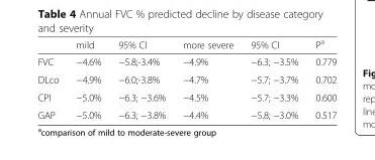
<table><thead><tr><td></td><td>mild</td><td>95% CI</td><td>more severe</td><td>95% CI</td><td>P<sup>a</sup></td></tr></thead><tbody><tr><td>FVC</td><td>−4.6%</td><td>−5.8;-3.4%</td><td>−4.9%</td><td>−6.3; −3.5%</td><td>0.779</td></tr><tr><td>DLco</td><td>−4.9%</td><td>−6.0;-3.8%</td><td>−4.7%</td><td>−5.7; −3.7%</td><td>0.702</td></tr><tr><td>CPI</td><td>−5.0%</td><td>−6.3; −3.6%</td><td>−4.5%</td><td>−5.7; −3.3%</td><td>0.600</td></tr><tr><td>GAP</td><td>−5.0%</td><td>−6.3; −3.8%</td><td>−4.4%</td><td>−5.8; −3.0%</td><td>0.517</td></tr></tbody></table>